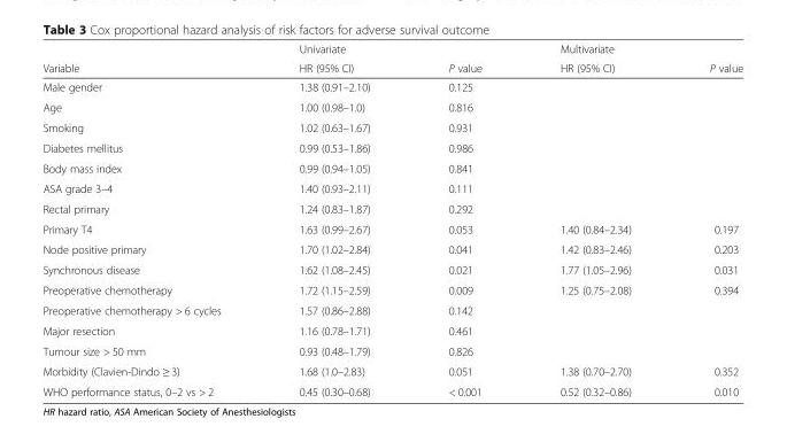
<table><thead><tr><td rowspan="2">Variable</td><td rowspan="2">Univariate HR (95% CI)</td><td rowspan="2">P value</td><td rowspan="2">Multivariate HR (95% CI)</td><td rowspan="2">P value</td></tr><tr></tr></thead><tbody><tr><td>Male gender</td><td>1.38 (0.91–2.10)</td><td>0.125</td><td></td><td></td></tr><tr><td>Age</td><td>1.00 (0.98–1.0)</td><td>0.816</td><td></td><td></td></tr><tr><td>Smoking</td><td>1.02 (0.63–1.67)</td><td>0.931</td><td></td><td></td></tr><tr><td>Diabetes mellitus</td><td>0.99 (0.53–1.86)</td><td>0.986</td><td></td><td></td></tr><tr><td>Body mass index</td><td>0.99 (0.94–1.05)</td><td>0.841</td><td></td><td></td></tr><tr><td>ASA grade 3–4</td><td>1.40 (0.93–2.11)</td><td>0.111</td><td></td><td></td></tr><tr><td>Rectal primary</td><td>1.24 (0.83–1.87)</td><td>0.292</td><td></td><td></td></tr><tr><td>Primary T4</td><td>1.63 (0.99–2.67)</td><td>0.053</td><td>1.40 (0.84–2.34)</td><td>0.197</td></tr><tr><td>Node positive primary</td><td>1.70 (1.02–2.84)</td><td>0.041</td><td>1.42 (0.83–2.46)</td><td>0.203</td></tr><tr><td>Synchronous disease</td><td>1.62 (1.08–2.45)</td><td>0.021</td><td>1.77 (1.05–2.96)</td><td>0.031</td></tr><tr><td>Preoperative chemotherapy</td><td>1.72 (1.15–2.59)</td><td>0.009</td><td>1.25 (0.75–2.08)</td><td>0.394</td></tr><tr><td>Preoperative chemotherapy &gt; 6 cycles</td><td>1.57 (0.86–2.88)</td><td>0.142</td><td></td><td></td></tr><tr><td>Major resection</td><td>1.16 (0.78–1.71)</td><td>0.461</td><td></td><td></td></tr><tr><td>Tumour size &gt; 50 mm</td><td>0.93 (0.48–1.79)</td><td>0.826</td><td></td><td></td></tr><tr><td>Morbidity (Clavien-Dindo ≥ 3)</td><td>1.68 (1.0–2.83)</td><td>0.051</td><td>1.38 (0.70–2.70)</td><td>0.352</td></tr><tr><td>WHO performance status, 0–2 vs &gt; 2</td><td>0.45 (0.30–0.68)</td><td>&lt; 0.001</td><td>0.52 (0.32–0.86)</td><td>0.010</td></tr></tbody></table>